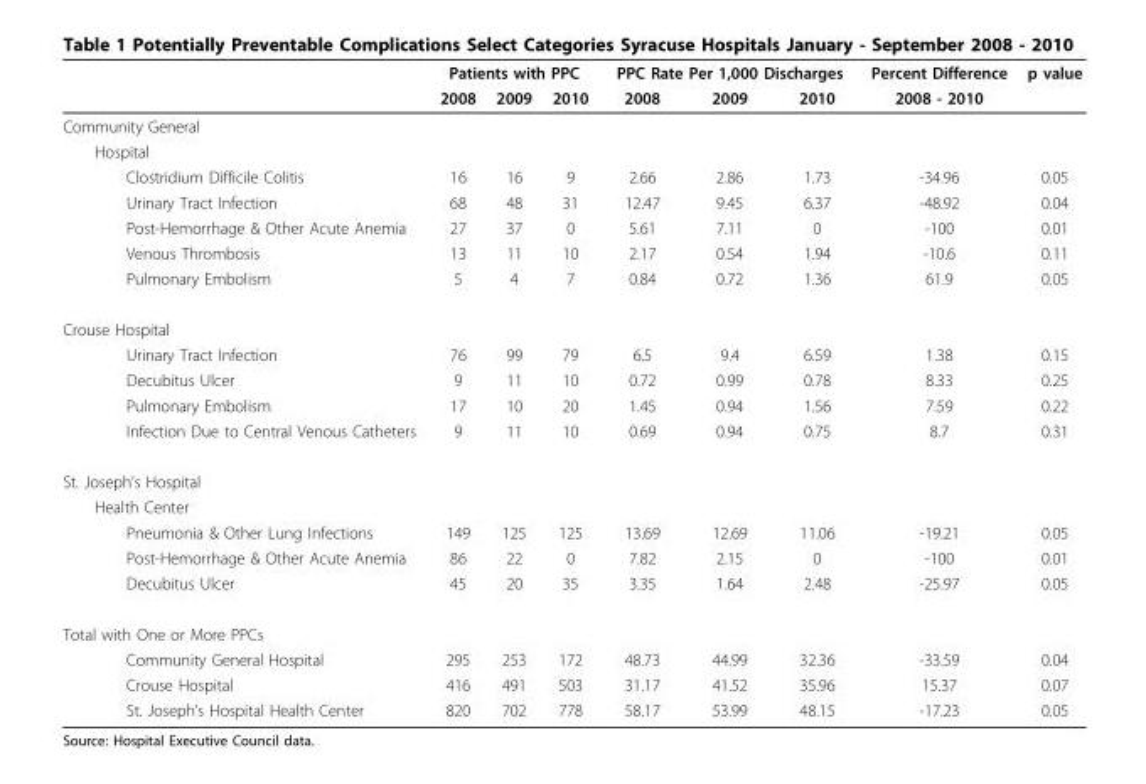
<table><thead><tr><td rowspan="2"></td><td colspan="3">Patients with PPC</td><td colspan="3">PPC Rate Per 1,000 Discharges</td><td rowspan="2">Percent Difference 2008 - 2010</td><td rowspan="2">p value</td></tr><tr><td>2008</td><td>2009</td><td>2010</td><td>2008</td><td>2009</td><td>2010</td></tr></thead><tbody><tr><td colspan="9">Community General</td></tr><tr><td colspan="9">Hospital</td></tr><tr><td>Clostridium Difficile Colitis</td><td>16</td><td>16</td><td>9</td><td>2.66</td><td>2.86</td><td>1.73</td><td>-34.96</td><td>0.05</td></tr><tr><td>Urinary Tract Infection</td><td>68</td><td>48</td><td>31</td><td>12.47</td><td>9.45</td><td>6.37</td><td>-48.92</td><td>0.04</td></tr><tr><td>Post-Hemorrhage &amp; Other Acute Anemia</td><td>27</td><td>37</td><td>0</td><td>5.61</td><td>7.11</td><td>0</td><td>-100</td><td>0.01</td></tr><tr><td>Venous Thrombosis</td><td>13</td><td>11</td><td>10</td><td>2.17</td><td>0.54</td><td>1.94</td><td>-10.6</td><td>0.11</td></tr><tr><td>Pulmonary Embolism</td><td>5</td><td>4</td><td>7</td><td>0.84</td><td>0.72</td><td>1.36</td><td>61.9</td><td>0.05</td></tr><tr><td colspan="9">Crouse Hospital</td></tr><tr><td>Urinary Tract Infection</td><td>76</td><td>99</td><td>79</td><td>6.5</td><td>9.4</td><td>6.59</td><td>1.38</td><td>0.15</td></tr><tr><td>Decubitus Ulcer</td><td>9</td><td>11</td><td>10</td><td>0.72</td><td>0.99</td><td>0.78</td><td>8.33</td><td>0.25</td></tr><tr><td>Pulmonary Embolism</td><td>17</td><td>10</td><td>20</td><td>1.45</td><td>0.94</td><td>1.56</td><td>7.59</td><td>0.22</td></tr><tr><td>Infection Due to Central Venous Catheters</td><td>9</td><td>11</td><td>10</td><td>0.69</td><td>0.94</td><td>0.75</td><td>8.7</td><td>0.31</td></tr><tr><td colspan="9">St. Joseph’s Hospital</td></tr><tr><td colspan="9">Health Center</td></tr><tr><td>Pneumonia &amp; Other Lung Infections</td><td>149</td><td>125</td><td>125</td><td>13.69</td><td>12.69</td><td>11.06</td><td>-19.21</td><td>0.05</td></tr><tr><td>Post-Hemorrhage &amp; Other Acute Anemia</td><td>86</td><td>22</td><td>0</td><td>7.82</td><td>2.15</td><td>0</td><td>-100</td><td>0.01</td></tr><tr><td>Decubitus Ulcer</td><td>45</td><td>20</td><td>35</td><td>3.35</td><td>1.64</td><td>2.48</td><td>-25.97</td><td>0.05</td></tr><tr><td colspan="9">Total with One or More PPCs</td></tr><tr><td>Community General Hospital</td><td>295</td><td>253</td><td>172</td><td>48.73</td><td>44.99</td><td>32.36</td><td>-33.59</td><td>0.04</td></tr><tr><td>Crouse Hospital</td><td>416</td><td>491</td><td>503</td><td>31.17</td><td>41.52</td><td>35.96</td><td>15.37</td><td>0.07</td></tr><tr><td>St. Joseph’s Hospital Health Center</td><td>820</td><td>702</td><td>778</td><td>58.17</td><td>53.99</td><td>48.15</td><td>-17.23</td><td>0.05</td></tr></tbody></table>